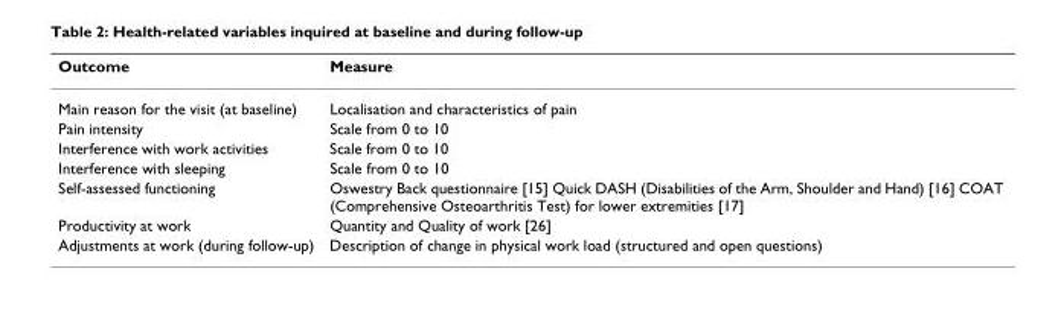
<table><thead><tr><td>Outcome</td><td>Measure</td></tr></thead><tbody><tr><td>Main reason for the visit (at baseline)</td><td>Localisation and characteristics of pain</td></tr><tr><td>Pain intensity</td><td>Scale from 0 to 10</td></tr><tr><td>Interference with work activities</td><td>Scale from 0 to 10</td></tr><tr><td>Interference with sleeping</td><td>Scale from 0 to 10</td></tr><tr><td>Self-assessed functioning</td><td>Oswestry Back questionnaire [15] Quick DASH (Disabilities of the Arm, Shoulder and Hand) [16] COAT (Comprehensive Osteoarthritis Test) for lower extremities [17]</td></tr><tr><td>Productivity at work</td><td>Quantity and Quality of work [26]</td></tr><tr><td>Adjustments at work (during follow-up)</td><td>Description of change in physical work load (structured and open questions)</td></tr></tbody></table>